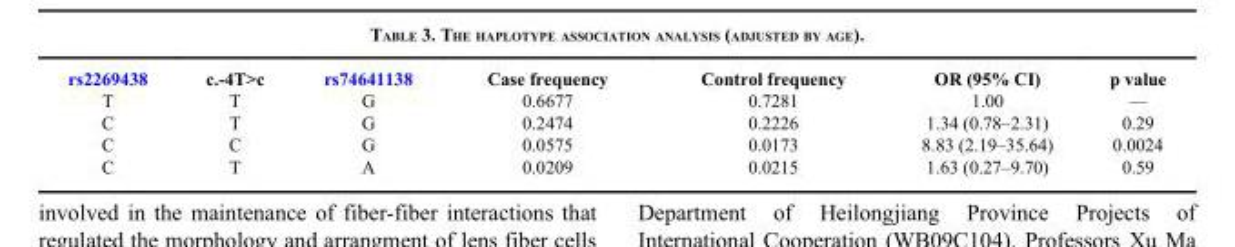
<table><thead><tr><td>rs2269438</td><td>c.-4T&gt;c</td><td>rs74641138</td><td>Case frequency</td><td>Control frequency</td><td>OR (95% CI)</td><td>p value</td></tr></thead><tbody><tr><td>T</td><td>T</td><td>G</td><td>0.6677</td><td>0.7281</td><td>1.00</td><td>—</td></tr><tr><td>C</td><td>T</td><td>G</td><td>0.2474</td><td>0.2226</td><td>1.34 (0.78–2.31)</td><td>0.29</td></tr><tr><td>C</td><td>C</td><td>G</td><td>0.0575</td><td>0.0173</td><td>8.83 (2.19–35.64)</td><td>0.0024</td></tr><tr><td>C</td><td>T</td><td>A</td><td>0.0209</td><td>0.0215</td><td>1.63 (0.27–9.70)</td><td>0.59</td></tr></tbody></table>